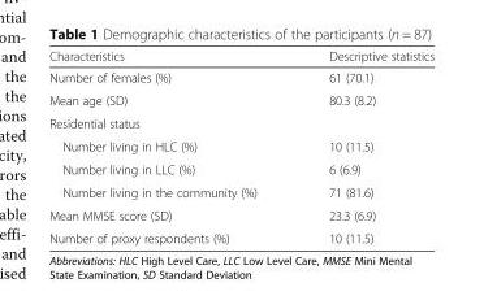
<table><thead><tr><td>Characteristics</td><td>Descriptive statistics</td></tr></thead><tbody><tr><td>Number of females (%)</td><td>61 (70.1)</td></tr><tr><td>Mean age (SD)</td><td>80.3 (8.2)</td></tr><tr><td colspan="2">Residential status</td></tr><tr><td>Number living in HLC (%)</td><td>10 (11.5)</td></tr><tr><td>Number living in LLC (%)</td><td>6 (6.9)</td></tr><tr><td>Number living in the community (%)</td><td>71 (81.6)</td></tr><tr><td>Mean MMSE score (SD)</td><td>23.3 (6.9)</td></tr><tr><td>Number of proxy respondents (%)</td><td>10 (11.5)</td></tr></tbody></table>